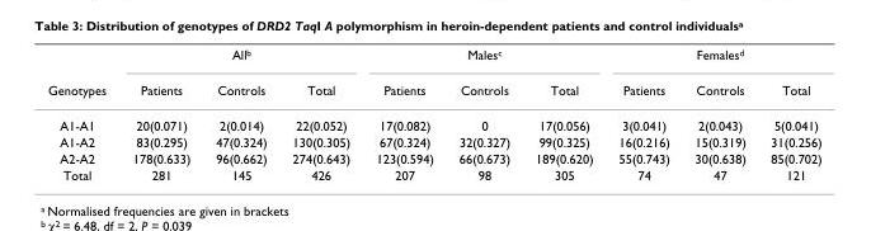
<table><thead><tr><td rowspan="2">Genotypes</td><td colspan="3">All<sup>b</sup></td><td colspan="3">Males<sup>c</sup></td><td colspan="3">Females<sup>d</sup></td></tr><tr><td>Patients</td><td>Controls</td><td>Total</td><td>Patients</td><td>Controls</td><td>Total</td><td>Patients</td><td>Controls</td><td>Total</td></tr></thead><tbody><tr><td>A1-A1</td><td>20(0.071)</td><td>2(0.014)</td><td>22(0.052)</td><td>17(0.082)</td><td>0</td><td>17(0.056)</td><td>3(0.041)</td><td>2(0.043)</td><td>5(0.041)</td></tr><tr><td>A1-A2</td><td>83(0.295)</td><td>47(0.324)</td><td>130(0.305)</td><td>67(0.324)</td><td>32(0.327)</td><td>99(0.325)</td><td>16(0.216)</td><td>15(0.319)</td><td>31(0.256)</td></tr><tr><td>A2-A2</td><td>178(0.633)</td><td>96(0.662)</td><td>274(0.643)</td><td>123(0.594)</td><td>66(0.673)</td><td>189(0.620)</td><td>55(0.743)</td><td>30(0.638)</td><td>85(0.702)</td></tr><tr><td>Total</td><td>281</td><td>145</td><td>426</td><td>207</td><td>98</td><td>305</td><td>74</td><td>47</td><td>121</td></tr></tbody></table>